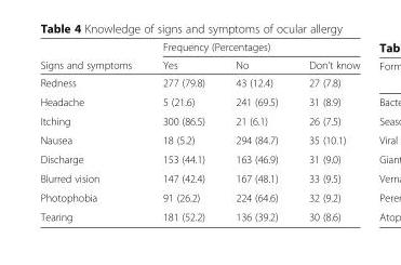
<table><thead><tr><td rowspan="2">Signs and symptoms</td><td colspan="3">Frequency (Percentages)</td></tr><tr><td>Yes</td><td>No</td><td>Don’t know</td></tr></thead><tbody><tr><td>Redness</td><td>277 (79.8)</td><td>43 (12.4)</td><td>27 (7.8)</td></tr><tr><td>Headache</td><td>5 (21.6)</td><td>241 (69.5)</td><td>31 (8.9)</td></tr><tr><td>Itching</td><td>300 (86.5)</td><td>21 (6.1)</td><td>26 (7.5)</td></tr><tr><td>Nausea</td><td>18 (5.2)</td><td>294 (84.7)</td><td>35 (10.1)</td></tr><tr><td>Discharge</td><td>153 (44.1)</td><td>163 (46.9)</td><td>31 (9.0)</td></tr><tr><td>Blurred vision</td><td>147 (42.4)</td><td>167 (48.1)</td><td>33 (9.5)</td></tr><tr><td>Photophobia</td><td>91 (26.2)</td><td>224 (64.6)</td><td>32 (9.2)</td></tr><tr><td>Tearing</td><td>181 (52.2)</td><td>136 (39.2)</td><td>30 (8.6)</td></tr></tbody></table>